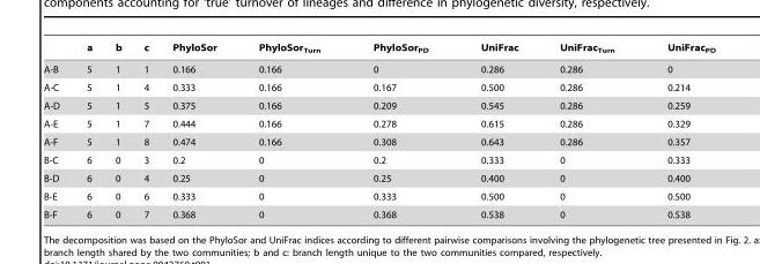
<table><thead><tr><td></td><td>a</td><td>b</td><td>c</td><td>PhyloSor</td><td>PhyloSor<sub>Turn</sub></td><td>PhyloSor<sub>PD</sub></td><td>UniFrac</td><td>UniFrac<sub>Turn</sub></td><td>UniFrac<sub>PD</sub></td></tr></thead><tbody><tr><td>A-B</td><td>5</td><td>1</td><td>1</td><td>0.166</td><td>0.166</td><td>0</td><td>0.286</td><td>0.286</td><td>0</td></tr><tr><td>A-C</td><td>5</td><td>1</td><td>4</td><td>0.333</td><td>0.166</td><td>0.167</td><td>0.500</td><td>0.286</td><td>0.214</td></tr><tr><td>A-D</td><td>5</td><td>1</td><td>5</td><td>0.375</td><td>0.166</td><td>0.209</td><td>0.545</td><td>0.286</td><td>0.259</td></tr><tr><td>A-E</td><td>5</td><td>1</td><td>7</td><td>0.444</td><td>0.166</td><td>0.278</td><td>0.615</td><td>0.286</td><td>0.329</td></tr><tr><td>A-F</td><td>5</td><td>1</td><td>8</td><td>0.474</td><td>0.166</td><td>0.308</td><td>0.643</td><td>0.286</td><td>0.357</td></tr><tr><td>B-C</td><td>6</td><td>0</td><td>3</td><td>0.2</td><td>0</td><td>0.2</td><td>0.333</td><td>0</td><td>0.333</td></tr><tr><td>B-D</td><td>6</td><td>0</td><td>4</td><td>0.25</td><td>0</td><td>0.25</td><td>0.400</td><td>0</td><td>0.400</td></tr><tr><td>B-E</td><td>6</td><td>0</td><td>6</td><td>0.333</td><td>0</td><td>0.333</td><td>0.500</td><td>0</td><td>0.500</td></tr><tr><td>B-F</td><td>6</td><td>0</td><td>7</td><td>0.368</td><td>0</td><td>0.368</td><td>0.538</td><td>0</td><td>0.538</td></tr></tbody></table>